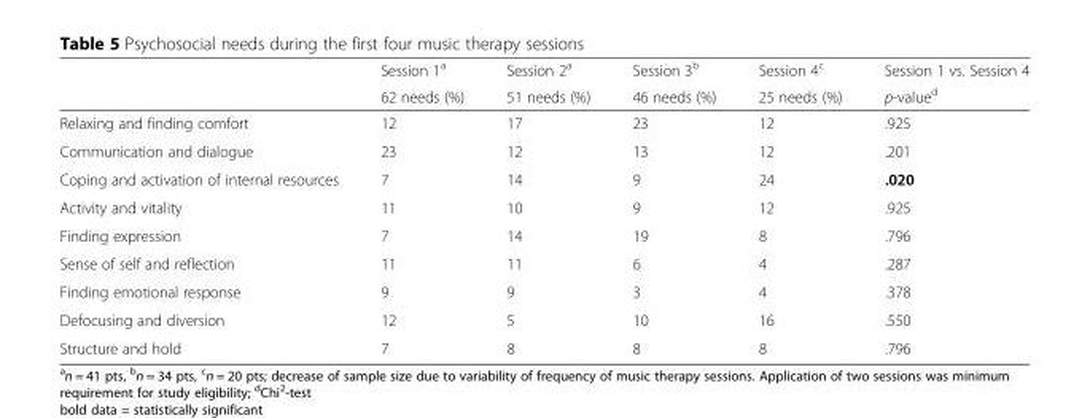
<table><thead><tr><td rowspan="2"></td><td rowspan="2">Session 1<sup>a</sup> 62 needs (%)</td><td rowspan="2">Session 2<sup>a</sup> 51 needs (%)</td><td rowspan="2">Session 3<sup>b</sup> 46 needs (%)</td><td rowspan="2">Session 4<sup>c</sup> 25 needs (%)</td><td rowspan="2">Session 1 vs. Session 4 p-value<sup>d</sup></td></tr><tr></tr></thead><tbody><tr><td>Relaxing and finding comfort</td><td>12</td><td>17</td><td>23</td><td>12</td><td>.925</td></tr><tr><td>Communication and dialogue</td><td>23</td><td>12</td><td>13</td><td>12</td><td>.201</td></tr><tr><td>Coping and activation of internal resources</td><td>7</td><td>14</td><td>9</td><td>24</td><td>.020</td></tr><tr><td>Activity and vitality</td><td>11</td><td>10</td><td>9</td><td>12</td><td>.925</td></tr><tr><td>Finding expression</td><td>7</td><td>14</td><td>19</td><td>8</td><td>.796</td></tr><tr><td>Sense of self and reflection</td><td>11</td><td>11</td><td>6</td><td>4</td><td>.287</td></tr><tr><td>Finding emotional response</td><td>9</td><td>9</td><td>3</td><td>4</td><td>.378</td></tr><tr><td>Defocusing and diversion</td><td>12</td><td>5</td><td>10</td><td>16</td><td>.550</td></tr><tr><td>Structure and hold</td><td>7</td><td>8</td><td>8</td><td>8</td><td>.796</td></tr></tbody></table>